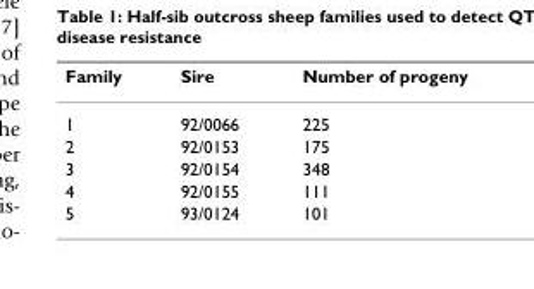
<table><thead><tr><td>Family</td><td>Sire</td><td>Number of progeny</td></tr></thead><tbody><tr><td>1</td><td>92/0066</td><td>225</td></tr><tr><td>2</td><td>92/0153</td><td>175</td></tr><tr><td>3</td><td>92/0154</td><td>348</td></tr><tr><td>4</td><td>92/0155</td><td>111</td></tr><tr><td>5</td><td>93/0124</td><td>101</td></tr></tbody></table>